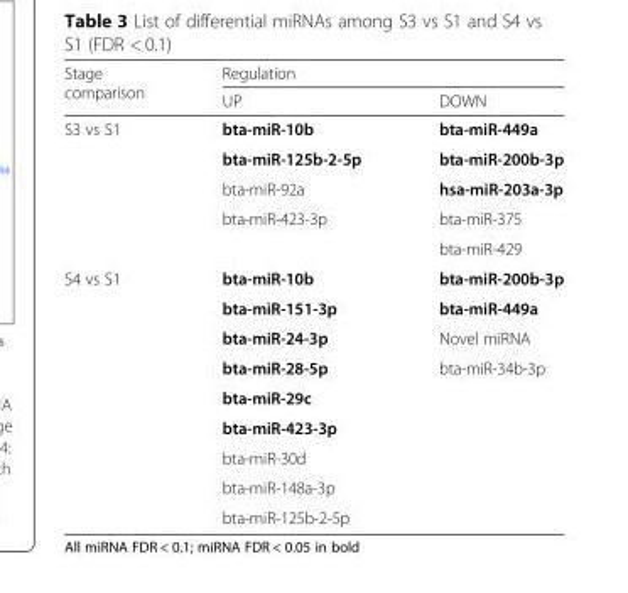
<table><thead><tr><td rowspan="2">Stage comparison</td><td colspan="2">Regulation</td></tr><tr><td>UP</td><td>DOWN</td></tr></thead><tbody><tr><td rowspan="5">S3 vs S1</td><td>bta-miR-10b</td><td>bta-miR-449a</td></tr><tr><td>bta-miR-125b-2-5p</td><td>bta-miR-200b-3p</td></tr><tr><td>bta-miR-92a</td><td>hsa-miR-203a-3p</td></tr><tr><td>bta-miR-423-3p</td><td>bta-miR-375</td></tr><tr><td></td><td>bta-miR-429</td></tr><tr><td rowspan="9">S4 vs S1</td><td>bta-miR-10b</td><td>bta-miR-200b-3p</td></tr><tr><td>bta-miR-151-3p</td><td>bta-miR-449a</td></tr><tr><td>bta-miR-24-3p</td><td>Novel miRNA</td></tr><tr><td>bta-miR-28-5p</td><td>bta-miR-34b-3p</td></tr><tr><td>bta-miR-29c</td><td></td></tr><tr><td>bta-miR-423-3p</td><td></td></tr><tr><td>bta-miR-30d</td><td></td></tr><tr><td>bta-miR-148a-3p</td><td></td></tr><tr><td>bta-miR-125b-2-5p</td><td></td></tr></tbody></table>